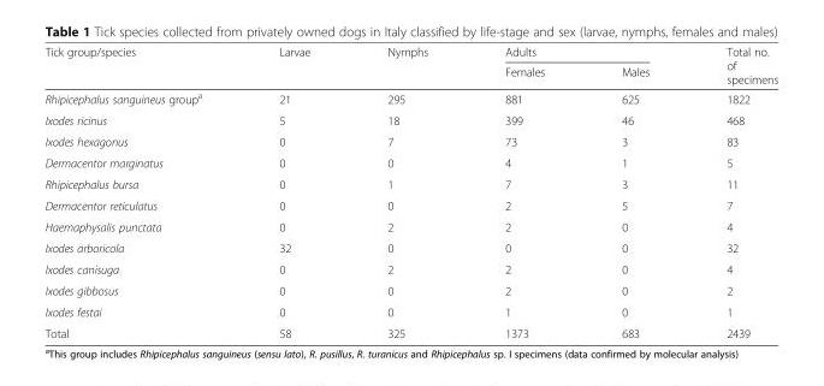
<table><thead><tr><td rowspan="2">Tick group/species</td><td rowspan="2">Larvae</td><td rowspan="2">Nymphs</td><td colspan="2">Adults</td><td rowspan="2">Total no. of specimens</td></tr><tr><td>Females</td><td>Males</td></tr></thead><tbody><tr><td>Rhipicephalus sanguineus group<sup>a</sup></td><td>21</td><td>295</td><td>881</td><td>625</td><td>1822</td></tr><tr><td>Ixodes ricinus</td><td>5</td><td>18</td><td>399</td><td>46</td><td>468</td></tr><tr><td>Ixodes hexagonus</td><td>0</td><td>7</td><td>73</td><td>3</td><td>83</td></tr><tr><td>Dermacentor marginatus</td><td>0</td><td>0</td><td>4</td><td>1</td><td>5</td></tr><tr><td>Rhipicephalus bursa</td><td>0</td><td>1</td><td>7</td><td>3</td><td>11</td></tr><tr><td>Dermacentor reticulatus</td><td>0</td><td>0</td><td>2</td><td>5</td><td>7</td></tr><tr><td>Haemaphysalis punctata</td><td>0</td><td>2</td><td>2</td><td>0</td><td>4</td></tr><tr><td>Ixodes arboricola</td><td>32</td><td>0</td><td>0</td><td>0</td><td>32</td></tr><tr><td>Ixodes canisuga</td><td>0</td><td>2</td><td>2</td><td>0</td><td>4</td></tr><tr><td>Ixodes gibbosus</td><td>0</td><td>0</td><td>2</td><td>0</td><td>2</td></tr><tr><td>Ixodes festai</td><td>0</td><td>0</td><td>1</td><td>0</td><td>1</td></tr><tr><td>Total</td><td>58</td><td>325</td><td>1373</td><td>683</td><td>2439</td></tr></tbody></table>